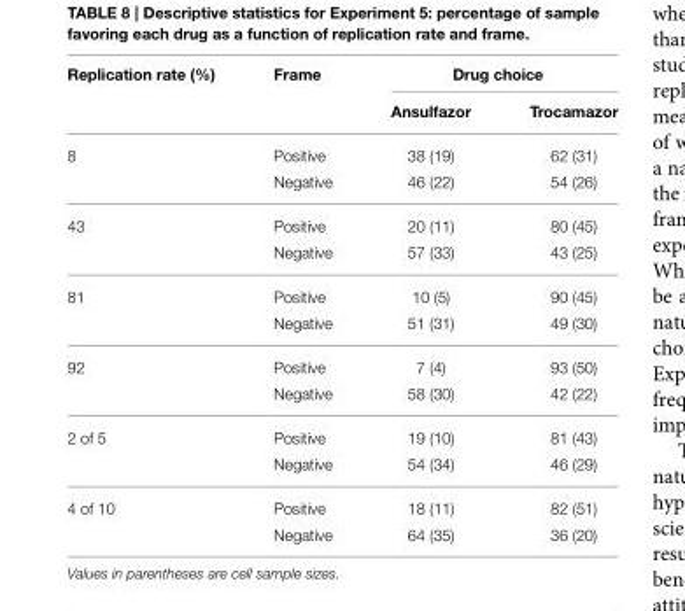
<table><thead><tr><td rowspan="2">Replication rate (%)</td><td rowspan="2">Frame</td><td colspan="2">Drug choice</td></tr><tr><td>Ansulfazor</td><td>Trocamazor</td></tr></thead><tbody><tr><td rowspan="2">8</td><td>Positive</td><td>38 (19)</td><td>62 (31)</td></tr><tr><td>Negative</td><td>46 (22)</td><td>54 (26)</td></tr><tr><td rowspan="2">43</td><td>Positive</td><td>20 (11)</td><td>80 (45)</td></tr><tr><td>Negative</td><td>57 (33)</td><td>43 (25)</td></tr><tr><td rowspan="2">81</td><td>Positive</td><td>10 (5)</td><td>90 (45)</td></tr><tr><td>Negative</td><td>51 (31)</td><td>49 (30)</td></tr><tr><td rowspan="2">92</td><td>Positive</td><td>7 (4)</td><td>93 (50)</td></tr><tr><td>Negative</td><td>58 (30)</td><td>42 (22)</td></tr><tr><td rowspan="2">2 of 5</td><td>Positive</td><td>19 (10)</td><td>81 (43)</td></tr><tr><td>Negative</td><td>54 (34)</td><td>46 (29)</td></tr><tr><td rowspan="2">4 of 10</td><td>Positive</td><td>18 (11)</td><td>82 (51)</td></tr><tr><td>Negative</td><td>64 (35)</td><td>36 (20)</td></tr></tbody></table>